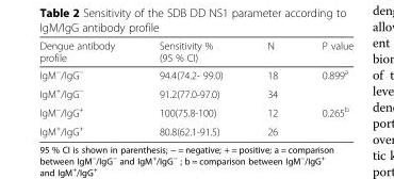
<table><thead><tr><td>Dengue antibody profile</td><td>Sensitivity % (95 % CI)</td><td>N</td><td>P value</td></tr></thead><tbody><tr><td>IgM<sup>−</sup>/IgG<sup>−</sup></td><td>94.4(74.2- 99.0)</td><td>18</td><td rowspan="2">0.899<sup>a</sup></td></tr><tr><td>IgM<sup>+</sup>/IgG<sup>−</sup></td><td>91.2(77.0-97.0)</td><td>34</td></tr><tr><td>IgM<sup>−</sup>/IgG<sup>+</sup></td><td>100(75.8-100)</td><td>12</td><td rowspan="2">0.265<sup>b</sup></td></tr><tr><td>IgM<sup>+</sup>/IgG<sup>+</sup></td><td>80.8(62.1-91.5)</td><td>26</td></tr></tbody></table>